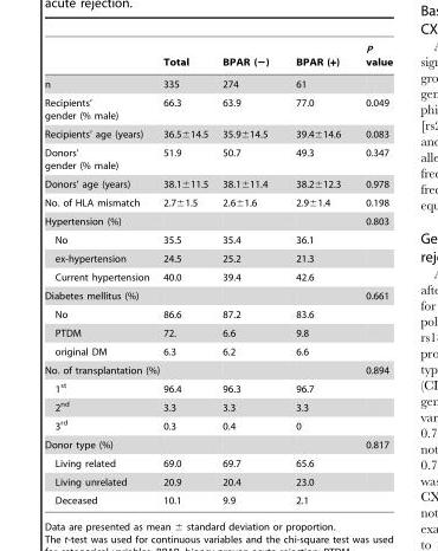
<table><thead><tr><td></td><td>Total</td><td>BPAR (−)</td><td>BPAR (+)</td><td>P value</td></tr></thead><tbody><tr><td>n</td><td>335</td><td>274</td><td>61</td><td></td></tr><tr><td>Recipients’ gender (% male)</td><td>66.3</td><td>63.9</td><td>77.0</td><td>0.049</td></tr><tr><td>Recipients’ age (years)</td><td>36.5±14.5</td><td>35.9±14.5</td><td>39.4±14.6</td><td>0.083</td></tr><tr><td>Donors’ gender (% male)</td><td>51.9</td><td>50.7</td><td>49.3</td><td>0.347</td></tr><tr><td>Donors’ age (years)</td><td>38.1±11.5</td><td>38.1±11.4</td><td>38.2±12.3</td><td>0.978</td></tr><tr><td>No. of HLA mismatch</td><td>2.7±1.5</td><td>2.6±1.6</td><td>2.9±1.4</td><td>0.198</td></tr><tr><td>Hypertension (%)</td><td></td><td></td><td></td><td>0.803</td></tr><tr><td>No</td><td>35.5</td><td>35.4</td><td>36.1</td><td></td></tr><tr><td>ex-hypertension</td><td>24.5</td><td>25.2</td><td>21.3</td><td></td></tr><tr><td>Current hypertension</td><td>40.0</td><td>39.4</td><td>42.6</td><td></td></tr><tr><td>Diabetes mellitus (%)</td><td></td><td></td><td></td><td>0.661</td></tr><tr><td>No</td><td>86.6</td><td>87.2</td><td>83.6</td><td></td></tr><tr><td>PTDM</td><td>72.</td><td>6.6</td><td>9.8</td><td></td></tr><tr><td>original DM</td><td>6.3</td><td>6.2</td><td>6.6</td><td></td></tr><tr><td>No. of transplantation (%)</td><td></td><td></td><td></td><td>0.894</td></tr><tr><td>1<sup>st</sup></td><td>96.4</td><td>96.3</td><td>96.7</td><td></td></tr><tr><td>2<sup>nd</sup></td><td>3.3</td><td>3.3</td><td>3.3</td><td></td></tr><tr><td>3<sup>rd</sup></td><td>0.3</td><td>0.4</td><td>0</td><td></td></tr><tr><td>Donor type (%)</td><td></td><td></td><td></td><td>0.817</td></tr><tr><td>Living related</td><td>69.0</td><td>69.7</td><td>65.6</td><td></td></tr><tr><td>Living unrelated</td><td>20.9</td><td>20.4</td><td>23.0</td><td></td></tr><tr><td>Deceased</td><td>10.1</td><td>9.9</td><td>2.1</td><td></td></tr></tbody></table>